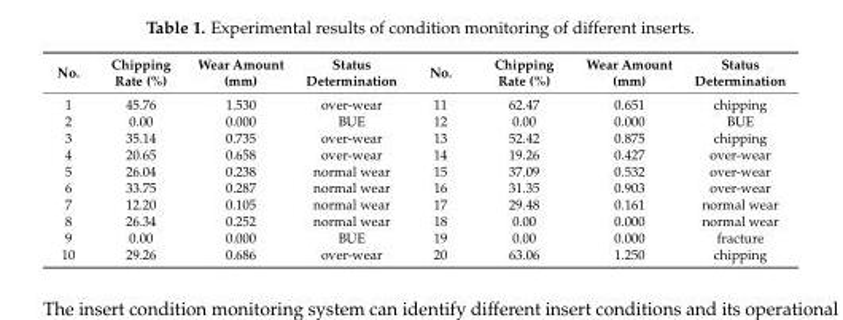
<table><thead><tr><td>No.</td><td>Chipping Rate (%)</td><td>Wear Amount (mm)</td><td>Status Determination</td><td>No.</td><td>Chipping Rate (%)</td><td>Wear Amount (mm)</td><td>Status Determination</td></tr></thead><tbody><tr><td>1</td><td>45.76</td><td>1.530</td><td>over-wear</td><td>11</td><td>62.47</td><td>0.651</td><td>chipping</td></tr><tr><td>2</td><td>0.00</td><td>0.000</td><td>BUE</td><td>12</td><td>0.00</td><td>0.000</td><td>BUE</td></tr><tr><td>3</td><td>35.14</td><td>0.735</td><td>over-wear</td><td>13</td><td>52.42</td><td>0.875</td><td>chipping</td></tr><tr><td>4</td><td>20.65</td><td>0.658</td><td>over-wear</td><td>14</td><td>19.26</td><td>0.427</td><td>over-wear</td></tr><tr><td>5</td><td>26.04</td><td>0.238</td><td>normal wear</td><td>15</td><td>37.09</td><td>0.532</td><td>over-wear</td></tr><tr><td>6</td><td>33.75</td><td>0.287</td><td>normal wear</td><td>16</td><td>31.35</td><td>0.903</td><td>over-wear</td></tr><tr><td>7</td><td>12.20</td><td>0.105</td><td>normal wear</td><td>17</td><td>29.48</td><td>0.161</td><td>normal wear</td></tr><tr><td>8</td><td>26.34</td><td>0.252</td><td>normal wear</td><td>18</td><td>0.00</td><td>0.000</td><td>normal wear</td></tr><tr><td>9</td><td>0.00</td><td>0.000</td><td>BUE</td><td>19</td><td>0.00</td><td>0.000</td><td>fracture</td></tr><tr><td>10</td><td>29.26</td><td>0.686</td><td>over-wear</td><td>20</td><td>63.06</td><td>1.250</td><td>chipping</td></tr></tbody></table>